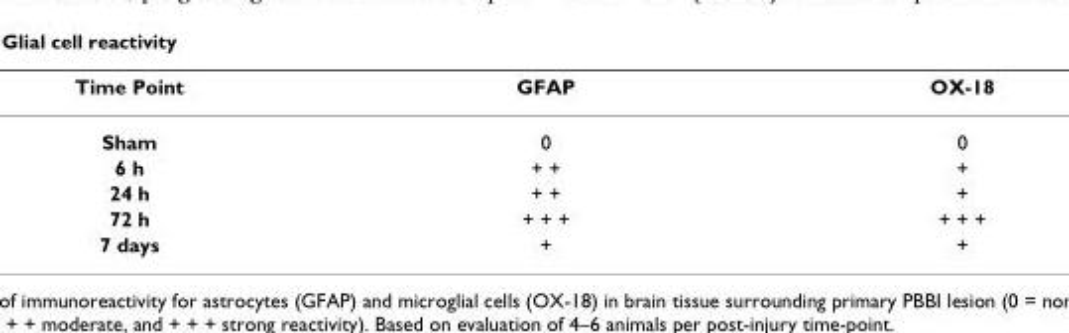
<table><thead><tr><td>Time Point</td><td>GFAP</td><td>OX-18</td></tr></thead><tbody><tr><td>Sham</td><td>0</td><td>0</td></tr><tr><td>6 h</td><td>+ +</td><td>+</td></tr><tr><td>24 h</td><td>+ +</td><td>+</td></tr><tr><td>72 h</td><td>+ + +</td><td>+ + +</td></tr><tr><td>7 days</td><td>+</td><td>+</td></tr></tbody></table>